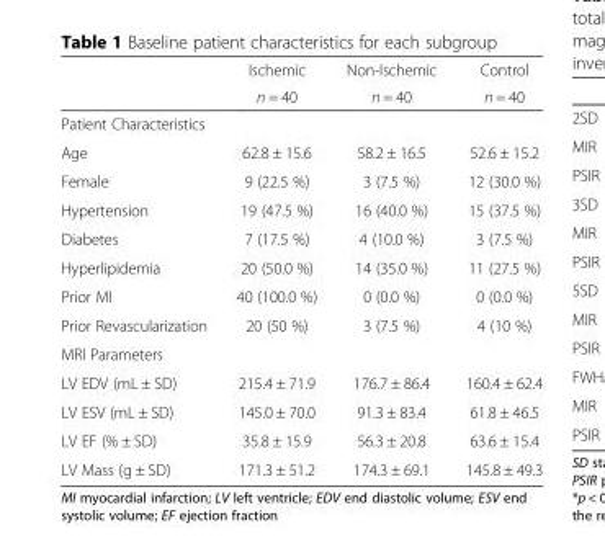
<table><thead><tr><td rowspan="2"></td><td rowspan="2">Ischemic n = 40</td><td rowspan="2">Non-Ischemic n = 40</td><td rowspan="2">Control n = 40</td></tr><tr></tr></thead><tbody><tr><td colspan="4">Patient Characteristics</td></tr><tr><td>Age</td><td>62.8 ± 15.6</td><td>58.2 ± 16.5</td><td>52.6 ± 15.2</td></tr><tr><td>Female</td><td>9 (22.5 %)</td><td>3 (7.5 %)</td><td>12 (30.0 %)</td></tr><tr><td>Hypertension</td><td>19 (47.5 %)</td><td>16 (40.0 %)</td><td>15 (37.5 %)</td></tr><tr><td>Diabetes</td><td>7 (17.5 %)</td><td>4 (10.0 %)</td><td>3 (7.5 %)</td></tr><tr><td>Hyperlipidemia</td><td>20 (50.0 %)</td><td>14 (35.0 %)</td><td>11 (27.5 %)</td></tr><tr><td>Prior MI</td><td>40 (100.0 %)</td><td>0 (0.0 %)</td><td>0 (0.0 %)</td></tr><tr><td>Prior Revascularization</td><td>20 (50 %)</td><td>3 (7.5 %)</td><td>4 (10 %)</td></tr><tr><td colspan="4">MRI Parameters</td></tr><tr><td>LV EDV (mL ± SD)</td><td>215.4 ± 71.9</td><td>176.7 ± 86.4</td><td>160.4 ± 62.4</td></tr><tr><td>LV ESV (mL ± SD)</td><td>145.0 ± 70.0</td><td>91.3 ± 83.4</td><td>61.8 ± 46.5</td></tr><tr><td>LV EF (% ± SD)</td><td>35.8 ± 15.9</td><td>56.3 ± 20.8</td><td>63.6 ± 15.4</td></tr><tr><td>LV Mass (g ± SD)</td><td>171.3 ± 51.2</td><td>174.3 ± 69.1</td><td>145.8 ± 49.3</td></tr></tbody></table>